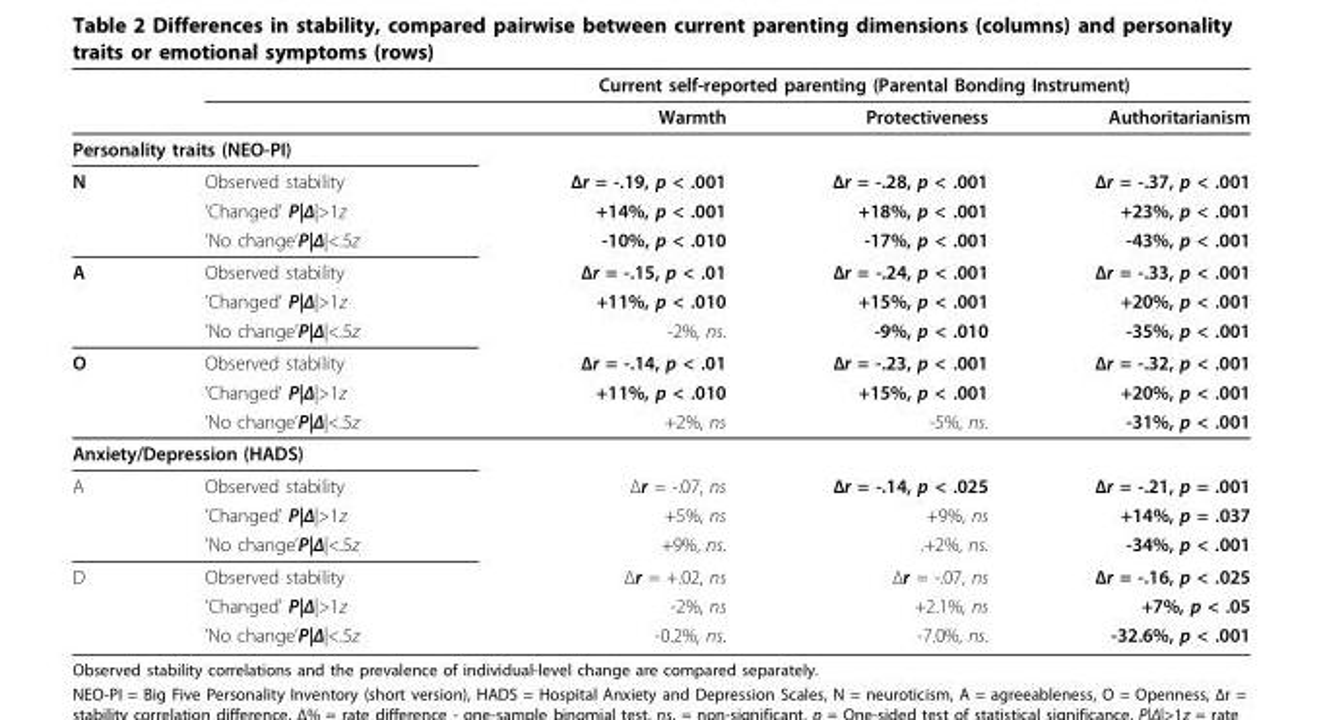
<table><thead><tr><td rowspan="2"></td><td rowspan="2"></td><td colspan="3">Current self-reported parenting (Parental Bonding Instrument)</td></tr><tr><td>Warmth</td><td>Protectiveness</td><td>Authoritarianism</td></tr></thead><tbody><tr><td colspan="5">Personality traits (NEO-PI)</td></tr><tr><td rowspan="3">N</td><td>Observed stability</td><td>Δr = -.19, p &lt; .001</td><td>Δr = -.28, p &lt; .001</td><td>Δr = -.37, p &lt; .001</td></tr><tr><td>’Changed’ P|Δ|&gt;1z</td><td>+14%, p &lt; .001</td><td>+18%, p &lt; .001</td><td>+23%, p &lt; .001</td></tr><tr><td>’No change’P|Δ|&lt;.5z</td><td>-10%, p &lt; .010</td><td>-17%, p &lt; .001</td><td>-43%, p &lt; .001</td></tr><tr><td rowspan="3">A</td><td>Observed stability</td><td>Δr = -.15, p &lt; .01</td><td>Δr = -.24, p &lt; .001</td><td>Δr = -.33, p &lt; .001</td></tr><tr><td>’Changed’ P|Δ|&gt;1z</td><td>+11%, p &lt; .010</td><td>+15%, p &lt; .001</td><td>+20%, p &lt; .001</td></tr><tr><td>’No change’P|Δ|&lt;.5z</td><td>-2%, ns.</td><td>-9%, p &lt; .010</td><td>-35%, p &lt; .001</td></tr><tr><td rowspan="3">O</td><td>Observed stability</td><td>Δr = -.14, p &lt; .01</td><td>Δr = -.23, p &lt; .001</td><td>Δr = -.32, p &lt; .001</td></tr><tr><td>’Changed’ P|Δ|&gt;1z</td><td>+11%, p &lt; .010</td><td>+15%, p &lt; .001</td><td>+20%, p &lt; .001</td></tr><tr><td>’No change’P|Δ|&lt;.5z</td><td>+2%, ns</td><td>-5%, ns.</td><td>-31%, p &lt; .001</td></tr><tr><td colspan="5">Anxiety/Depression (HADS)</td></tr><tr><td rowspan="3">A</td><td>Observed stability</td><td>Δr = -.07, ns</td><td>Δr = -.14, p &lt; .025</td><td>Δr = -.21, p = .001</td></tr><tr><td>’Changed’ P|Δ|&gt;1z</td><td>+5%, ns</td><td>+9%, ns</td><td>+14%, p = .037</td></tr><tr><td>’No change’P|Δ|&lt;.5z</td><td>+9%, ns.</td><td>.+2%, ns.</td><td>-34%, p &lt; .001</td></tr><tr><td rowspan="3">D</td><td>Observed stability</td><td>Δr = +.02, ns</td><td>Δr = -.07, ns</td><td>Δr = -.16, p &lt; .025</td></tr><tr><td>’Changed’ P|Δ|&gt;1z</td><td>-2%, ns</td><td>+2.1%, ns</td><td>+7%, p &lt; .05</td></tr><tr><td>’No change’P|Δ|&lt;.5z</td><td>-0.2%, ns.</td><td>-7.0%, ns.</td><td>-32.6%, p &lt; .001</td></tr></tbody></table>